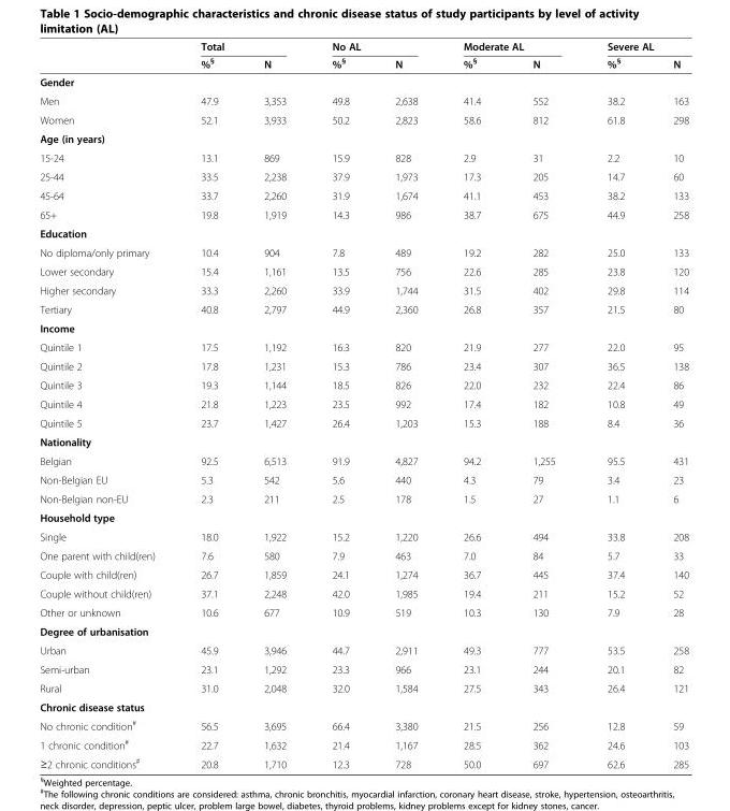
<table><thead><tr><td rowspan="2"></td><td colspan="2">Total</td><td colspan="2">No AL</td><td colspan="2">Moderate AL</td><td colspan="2">Severe AL</td></tr><tr><td>%<sup>§</sup></td><td>N</td><td>%<sup>§</sup></td><td>N</td><td>%<sup>§</sup></td><td>N</td><td>%<sup>§</sup></td><td>N</td></tr></thead><tbody><tr><td colspan="9">Gender</td></tr><tr><td>Men</td><td>47.9</td><td>3,353</td><td>49.8</td><td>2,638</td><td>41.4</td><td>552</td><td>38.2</td><td>163</td></tr><tr><td>Women</td><td>52.1</td><td>3,933</td><td>50.2</td><td>2,823</td><td>58.6</td><td>812</td><td>61.8</td><td>298</td></tr><tr><td colspan="9">Age (in years)</td></tr><tr><td>15-24</td><td>13.1</td><td>869</td><td>15.9</td><td>828</td><td>2.9</td><td>31</td><td>2.2</td><td>10</td></tr><tr><td>25-44</td><td>33.5</td><td>2,238</td><td>37.9</td><td>1,973</td><td>17.3</td><td>205</td><td>14.7</td><td>60</td></tr><tr><td>45-64</td><td>33.7</td><td>2,260</td><td>31.9</td><td>1,674</td><td>41.1</td><td>453</td><td>38.2</td><td>133</td></tr><tr><td>65+</td><td>19.8</td><td>1,919</td><td>14.3</td><td>986</td><td>38.7</td><td>675</td><td>44.9</td><td>258</td></tr><tr><td colspan="9">Education</td></tr><tr><td>No diploma/only primary</td><td>10.4</td><td>904</td><td>7.8</td><td>489</td><td>19.2</td><td>282</td><td>25.0</td><td>133</td></tr><tr><td>Lower secondary</td><td>15.4</td><td>1,161</td><td>13.5</td><td>756</td><td>22.6</td><td>285</td><td>23.8</td><td>120</td></tr><tr><td>Higher secondary</td><td>33.3</td><td>2,260</td><td>33.9</td><td>1,744</td><td>31.5</td><td>402</td><td>29.8</td><td>114</td></tr><tr><td>Tertiary</td><td>40.8</td><td>2,797</td><td>44.9</td><td>2,360</td><td>26.8</td><td>357</td><td>21.5</td><td>80</td></tr><tr><td colspan="9">Income</td></tr><tr><td>Quintile 1</td><td>17.5</td><td>1,192</td><td>16.3</td><td>820</td><td>21.9</td><td>277</td><td>22.0</td><td>95</td></tr><tr><td>Quintile 2</td><td>17.8</td><td>1,231</td><td>15.3</td><td>786</td><td>23.4</td><td>307</td><td>36.5</td><td>138</td></tr><tr><td>Quintile 3</td><td>19.3</td><td>1,144</td><td>18.5</td><td>826</td><td>22.0</td><td>232</td><td>22.4</td><td>86</td></tr><tr><td>Quintile 4</td><td>21.8</td><td>1,223</td><td>23.5</td><td>992</td><td>17.4</td><td>182</td><td>10.8</td><td>49</td></tr><tr><td>Quintile 5</td><td>23.7</td><td>1,427</td><td>26.4</td><td>1,203</td><td>15.3</td><td>188</td><td>8.4</td><td>36</td></tr><tr><td colspan="9">Nationality</td></tr><tr><td>Belgian</td><td>92.5</td><td>6,513</td><td>91.9</td><td>4,827</td><td>94.2</td><td>1,255</td><td>95.5</td><td>431</td></tr><tr><td>Non-Belgian EU</td><td>5.3</td><td>542</td><td>5.6</td><td>440</td><td>4.3</td><td>79</td><td>3.4</td><td>23</td></tr><tr><td>Non-Belgian non-EU</td><td>2.3</td><td>211</td><td>2.5</td><td>178</td><td>1.5</td><td>27</td><td>1.1</td><td>6</td></tr><tr><td colspan="9">Household type</td></tr><tr><td>Single</td><td>18.0</td><td>1,922</td><td>15.2</td><td>1,220</td><td>26.6</td><td>494</td><td>33.8</td><td>208</td></tr><tr><td>One parent with child(ren)</td><td>7.6</td><td>580</td><td>7.9</td><td>463</td><td>7.0</td><td>84</td><td>5.7</td><td>33</td></tr><tr><td>Couple with child(ren)</td><td>26.7</td><td>1,859</td><td>24.1</td><td>1,274</td><td>36.7</td><td>445</td><td>37.4</td><td>140</td></tr><tr><td>Couple without child(ren)</td><td>37.1</td><td>2,248</td><td>42.0</td><td>1,985</td><td>19.4</td><td>211</td><td>15.2</td><td>52</td></tr><tr><td>Other or unknown</td><td>10.6</td><td>677</td><td>10.9</td><td>519</td><td>10.3</td><td>130</td><td>7.9</td><td>28</td></tr><tr><td colspan="9">Degree of urbanisation</td></tr><tr><td>Urban</td><td>45.9</td><td>3,946</td><td>44.7</td><td>2,911</td><td>49.3</td><td>777</td><td>53.5</td><td>258</td></tr><tr><td>Semi-urban</td><td>23.1</td><td>1,292</td><td>23.3</td><td>966</td><td>23.1</td><td>244</td><td>20.1</td><td>82</td></tr><tr><td>Rural</td><td>31.0</td><td>2,048</td><td>32.0</td><td>1,584</td><td>27.5</td><td>343</td><td>26.4</td><td>121</td></tr><tr><td colspan="9">Chronic disease status</td></tr><tr><td>No chronic condition<sup>#</sup></td><td>56.5</td><td>3,695</td><td>66.4</td><td>3,380</td><td>21.5</td><td>256</td><td>12.8</td><td>59</td></tr><tr><td>1 chronic condition<sup>#</sup></td><td>22.7</td><td>1,632</td><td>21.4</td><td>1,167</td><td>28.5</td><td>362</td><td>24.6</td><td>103</td></tr><tr><td>≥2 chronic conditions<sup>#</sup></td><td>20.8</td><td>1,710</td><td>12.3</td><td>728</td><td>50.0</td><td>697</td><td>62.6</td><td>285</td></tr></tbody></table>